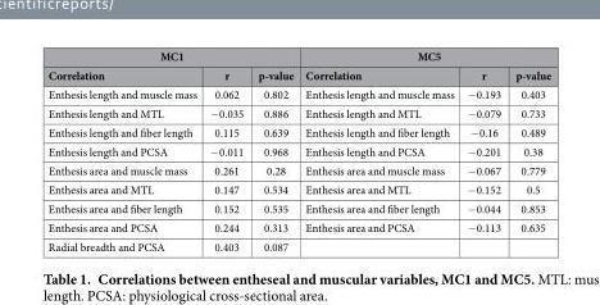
<table><thead><tr><td colspan="3">MC1</td><td colspan="3">MC5</td></tr><tr><td>Correlation</td><td>r</td><td>p-value</td><td>Correlation</td><td>r</td><td>p-value</td></tr></thead><tbody><tr><td>Enthesis length and muscle mass</td><td>0.062</td><td>0.802</td><td>Enthesis length and muscle mass</td><td>− 0.193</td><td>0.403</td></tr><tr><td>Enthesis length and MTL</td><td>− 0.035</td><td>0.886</td><td>Enthesis length and MTL</td><td>− 0.079</td><td>0.733</td></tr><tr><td>Enthesis length and fiber length</td><td>0.115</td><td>0.639</td><td>Enthesis length and fiber length</td><td>− 0.16</td><td>0.489</td></tr><tr><td>Enthesis length and PCSA</td><td>− 0.011</td><td>0.968</td><td>Enthesis length and PCSA</td><td>− 0.201</td><td>0.38</td></tr><tr><td>Enthesis area and muscle mass</td><td>0.261</td><td>0.28</td><td>Enthesis area and muscle mass</td><td>− 0.067</td><td>0.779</td></tr><tr><td>Enthesis area and MTL</td><td>0.147</td><td>0.534</td><td>Enthesis area and MTL</td><td>− 0.152</td><td>0.5</td></tr><tr><td>Enthesis area and fiber length</td><td>0.152</td><td>0.535</td><td>Enthesis area and fiber length</td><td>− 0.044</td><td>0.853</td></tr><tr><td>Enthesis area and PCSA</td><td>0.244</td><td>0.313</td><td>Enthesis area and PCSA</td><td>− 0.113</td><td>0.635</td></tr><tr><td>Radial breadth and PCSA</td><td>0.403</td><td>0.087</td><td></td><td></td><td></td></tr></tbody></table>